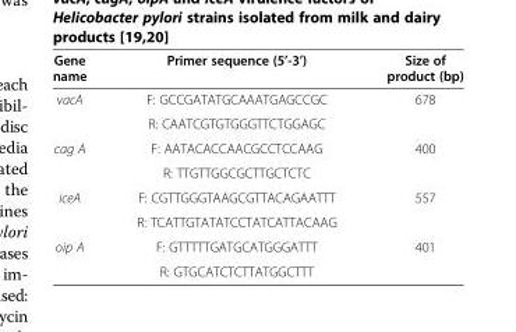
<table><thead><tr><td>Gene name</td><td>Primer sequence (5’-3’)</td><td>Size of product (bp)</td></tr></thead><tbody><tr><td rowspan="2">vacA</td><td>F: GCCGATATGCAAATGAGCCGC</td><td>678</td></tr><tr><td>R: CAATCGTGTGGGTTCTGGAGC</td><td></td></tr><tr><td rowspan="2">cag A</td><td>F: AATACACCAACGCCTCCAAG</td><td>400</td></tr><tr><td>R: TTGTTGGCGCTTGCTCTC</td><td></td></tr><tr><td rowspan="2">iceA</td><td>F: CGTTGGGTAAGCGTTACAGAATTT</td><td>557</td></tr><tr><td>R: TCATTGTATATCCTATCATTACAAG</td><td></td></tr><tr><td rowspan="2">oip A</td><td>F: GTTTTTGATGCATGGGATTT</td><td>401</td></tr><tr><td>R: GTGCATCTCTTATGGCTTT</td><td></td></tr></tbody></table>